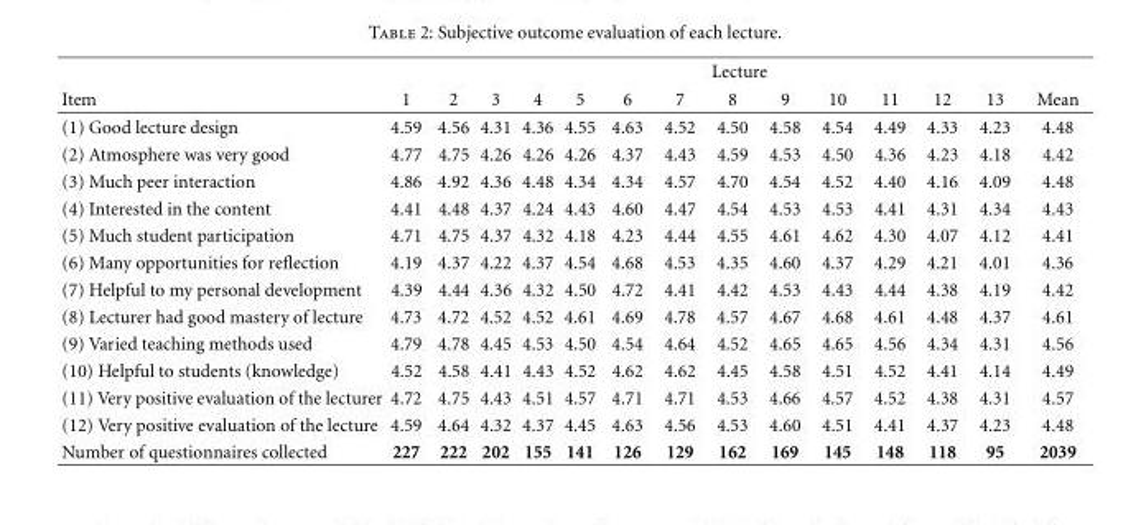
<table><thead><tr><td rowspan="2">Item</td><td colspan="14">Lecture</td></tr><tr><td>1</td><td>2</td><td>3</td><td>4</td><td>5</td><td>6</td><td>7</td><td>8</td><td>9</td><td>10</td><td>11</td><td>12</td><td>13</td><td>Mean</td></tr></thead><tbody><tr><td>(1) Good lecture design</td><td>4.59</td><td>4.56</td><td>4.31</td><td>4.36</td><td>4.55</td><td>4.63</td><td>4.52</td><td>4.50</td><td>4.58</td><td>4.54</td><td>4.49</td><td>4.33</td><td>4.23</td><td>4.48</td></tr><tr><td>(2) Atmosphere was very good</td><td>4.77</td><td>4.75</td><td>4.26</td><td>4.26</td><td>4.26</td><td>4.37</td><td>4.43</td><td>4.59</td><td>4.53</td><td>4.50</td><td>4.36</td><td>4.23</td><td>4.18</td><td>4.42</td></tr><tr><td>(3) Much peer interaction</td><td>4.86</td><td>4.92</td><td>4.36</td><td>4.48</td><td>4.34</td><td>4.34</td><td>4.57</td><td>4.70</td><td>4.54</td><td>4.52</td><td>4.40</td><td>4.16</td><td>4.09</td><td>4.48</td></tr><tr><td>(4) Interested in the content</td><td>4.41</td><td>4.48</td><td>4.37</td><td>4.24</td><td>4.43</td><td>4.60</td><td>4.47</td><td>4.54</td><td>4.53</td><td>4.53</td><td>4.41</td><td>4.31</td><td>4.34</td><td>4.43</td></tr><tr><td>(5) Much student participation</td><td>4.71</td><td>4.75</td><td>4.37</td><td>4.32</td><td>4.18</td><td>4.23</td><td>4.44</td><td>4.55</td><td>4.61</td><td>4.62</td><td>4.30</td><td>4.07</td><td>4.12</td><td>4.41</td></tr><tr><td>(6) Many opportunities for reflection</td><td>4.19</td><td>4.37</td><td>4.22</td><td>4.37</td><td>4.54</td><td>4.68</td><td>4.53</td><td>4.35</td><td>4.60</td><td>4.37</td><td>4.29</td><td>4.21</td><td>4.01</td><td>4.36</td></tr><tr><td>(7) Helpful to my personal development</td><td>4.39</td><td>4.44</td><td>4.36</td><td>4.32</td><td>4.50</td><td>4.72</td><td>4.41</td><td>4.42</td><td>4.53</td><td>4.43</td><td>4.44</td><td>4.38</td><td>4.19</td><td>4.42</td></tr><tr><td>(8) Lecturer had good mastery of lecture</td><td>4.73</td><td>4.72</td><td>4.52</td><td>4.52</td><td>4.61</td><td>4.69</td><td>4.78</td><td>4.57</td><td>4.67</td><td>4.68</td><td>4.61</td><td>4.48</td><td>4.37</td><td>4.61</td></tr><tr><td>(9) Varied teaching methods used</td><td>4.79</td><td>4.78</td><td>4.45</td><td>4.53</td><td>4.50</td><td>4.54</td><td>4.64</td><td>4.52</td><td>4.65</td><td>4.65</td><td>4.56</td><td>4.34</td><td>4.31</td><td>4.56</td></tr><tr><td>(10) Helpful to students (knowledge)</td><td>4.52</td><td>4.58</td><td>4.41</td><td>4.43</td><td>4.52</td><td>4.62</td><td>4.62</td><td>4.45</td><td>4.58</td><td>4.51</td><td>4.52</td><td>4.41</td><td>4.14</td><td>4.49</td></tr><tr><td>(11) Very positive evaluation of the lecturer</td><td>4.72</td><td>4.75</td><td>4.43</td><td>4.51</td><td>4.57</td><td>4.71</td><td>4.71</td><td>4.53</td><td>4.66</td><td>4.57</td><td>4.52</td><td>4.38</td><td>4.31</td><td>4.57</td></tr><tr><td>(12) Very positive evaluation of the lecture</td><td>4.59</td><td>4.64</td><td>4.32</td><td>4.37</td><td>4.45</td><td>4.63</td><td>4.56</td><td>4.53</td><td>4.60</td><td>4.51</td><td>4.41</td><td>4.37</td><td>4.23</td><td>4.48</td></tr><tr><td>Number of questionnaires collected</td><td>227</td><td>222</td><td>202</td><td>155</td><td>141</td><td>126</td><td>129</td><td>162</td><td>169</td><td>145</td><td>148</td><td>118</td><td>95</td><td>2039</td></tr></tbody></table>